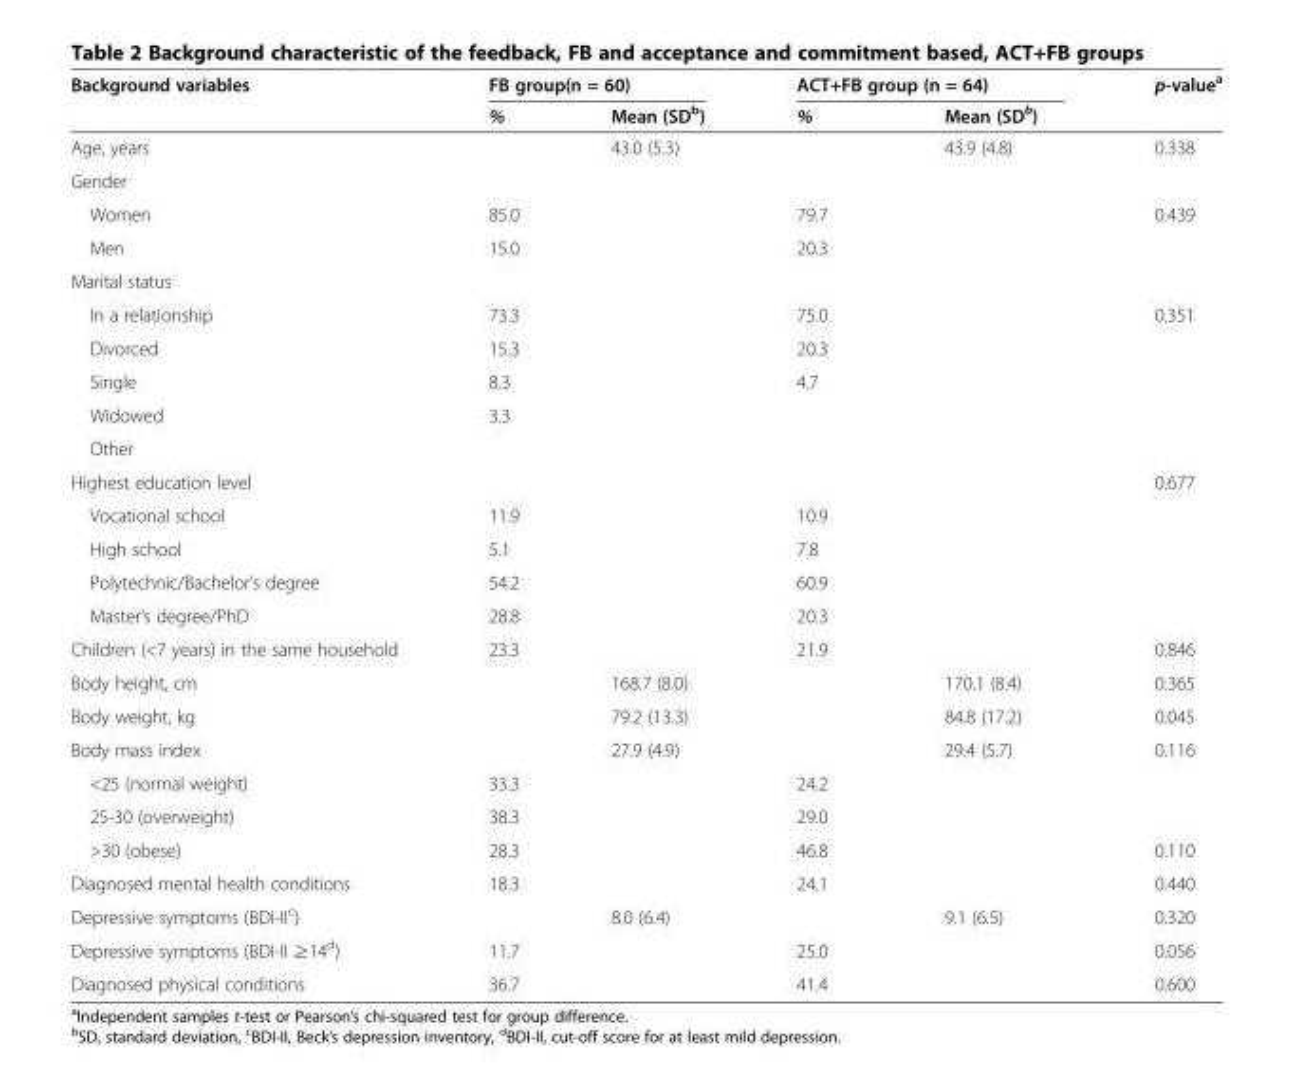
<table><thead><tr><td rowspan="2">Background variables</td><td colspan="2">FB group(n = 60)</td><td colspan="2">ACT+FB group (n = 64)</td><td rowspan="2">p-value<sup>a</sup></td></tr><tr><td>%</td><td>Mean (SD<sup>b</sup>)</td><td>%</td><td>Mean (SD<sup>b</sup>)</td></tr></thead><tbody><tr><td>Age, years</td><td></td><td>43.0 (5.3)</td><td></td><td>43.9 (4.8)</td><td>0.338</td></tr><tr><td colspan="6">Gender</td></tr><tr><td>Women</td><td>85.0</td><td></td><td>79.7</td><td></td><td>0.439</td></tr><tr><td>Men</td><td>15.0</td><td></td><td>20.3</td><td></td><td></td></tr><tr><td colspan="6">Marital status</td></tr><tr><td>In a relationship</td><td>73.3</td><td></td><td>75.0</td><td></td><td>0.351</td></tr><tr><td>Divorced</td><td>15.3</td><td></td><td>20.3</td><td></td><td></td></tr><tr><td>Single</td><td>8.3</td><td></td><td>4.7</td><td></td><td></td></tr><tr><td>Widowed</td><td>3.3</td><td></td><td></td><td></td><td></td></tr><tr><td colspan="6">Other</td></tr><tr><td>Highest education level</td><td></td><td></td><td></td><td></td><td>0.677</td></tr><tr><td>Vocational school</td><td>11.9</td><td></td><td>10.9</td><td></td><td></td></tr><tr><td>High school</td><td>5.1</td><td></td><td>7.8</td><td></td><td></td></tr><tr><td>Polytechnic/Bachelor’s degree</td><td>54.2</td><td></td><td>60.9</td><td></td><td></td></tr><tr><td>Master’s degree/PhD</td><td>28.8</td><td></td><td>20.3</td><td></td><td></td></tr><tr><td>Children (&lt;7 years) in the same household</td><td>23.3</td><td></td><td>21.9</td><td></td><td>0.846</td></tr><tr><td>Body height, cm</td><td></td><td>168.7 (8.0)</td><td></td><td>170.1 (8.4)</td><td>0.365</td></tr><tr><td>Body weight, kg</td><td></td><td>79.2 (13.3)</td><td></td><td>84.8 (17.2)</td><td>0.045</td></tr><tr><td>Body mass index</td><td></td><td>27.9 (4.9)</td><td></td><td>29.4 (5.7)</td><td>0.116</td></tr><tr><td>&lt;25 (normal weight)</td><td>33.3</td><td></td><td>24.2</td><td></td><td></td></tr><tr><td>25-30 (overweight)</td><td>38.3</td><td></td><td>29.0</td><td></td><td></td></tr><tr><td>&gt;30 (obese)</td><td>28.3</td><td></td><td>46.8</td><td></td><td>0.110</td></tr><tr><td>Diagnosed mental health conditions</td><td>18.3</td><td></td><td>24.1</td><td></td><td>0.440</td></tr><tr><td>Depressive symptoms (BDI-II<sup>c</sup>)</td><td></td><td>8.0 (6.4)</td><td></td><td>9.1 (6.5)</td><td>0.320</td></tr><tr><td>Depressive symptoms (BDI-II ≥14<sup>d</sup>)</td><td>11.7</td><td></td><td>25.0</td><td></td><td>0.056</td></tr><tr><td>Diagnosed physical conditions</td><td>36.7</td><td></td><td>41.4</td><td></td><td>0.600</td></tr></tbody></table>